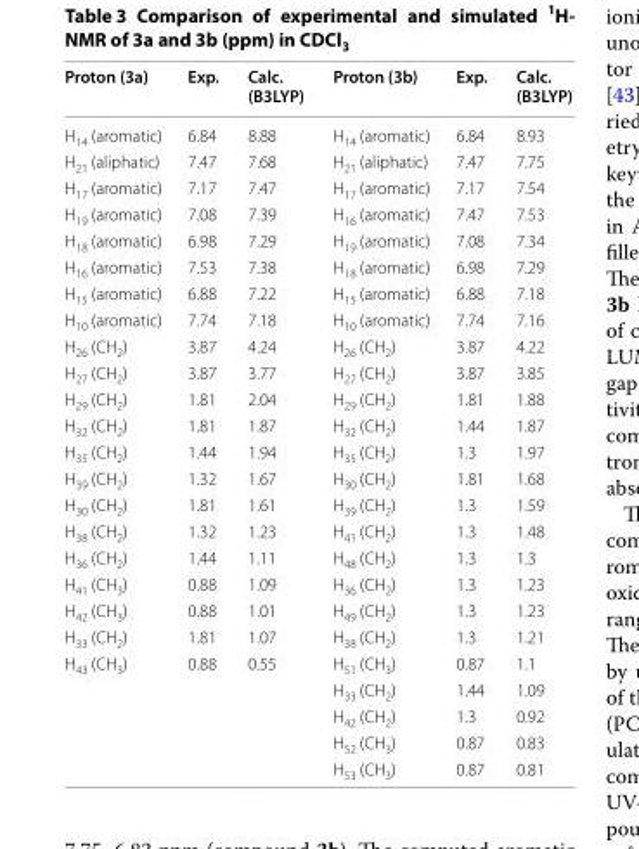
<table><thead><tr><td>Proton (3a)</td><td>Exp.</td><td>Calc. (B3LYP)</td><td>Proton (3b)</td><td>Exp.</td><td>Calc. (B3LYP)</td></tr></thead><tbody><tr><td>H<sub>14</sub> (aromatic)</td><td>6.84</td><td>8.88</td><td>H<sub>14</sub> (aromatic)</td><td>6.84</td><td>8.93</td></tr><tr><td>H<sub>21</sub> (aliphatic)</td><td>7.47</td><td>7.68</td><td>H<sub>21</sub> (aliphatic)</td><td>7.47</td><td>7.75</td></tr><tr><td>H<sub>17</sub> (aromatic)</td><td>7.17</td><td>7.47</td><td>H<sub>17</sub> (aromatic)</td><td>7.17</td><td>7.54</td></tr><tr><td>H<sub>19</sub> (aromatic)</td><td>7.08</td><td>7.39</td><td>H<sub>16</sub> (aromatic)</td><td>7.47</td><td>7.53</td></tr><tr><td>H<sub>18</sub> (aromatic)</td><td>6.98</td><td>7.29</td><td>H<sub>19</sub> (aromatic)</td><td>7.08</td><td>7.34</td></tr><tr><td>H<sub>16</sub> (aromatic)</td><td>7.53</td><td>7.38</td><td>H<sub>18</sub> (aromatic)</td><td>6.98</td><td>7.29</td></tr><tr><td>H<sub>15</sub> (aromatic)</td><td>6.88</td><td>7.22</td><td>H<sub>15</sub> (aromatic)</td><td>6.88</td><td>7.18</td></tr><tr><td>H<sub>10</sub> (aromatic)</td><td>7.74</td><td>7.18</td><td>H<sub>10</sub> (aromatic)</td><td>7.74</td><td>7.16</td></tr><tr><td>H<sub>26</sub> (CH<sub>2</sub>)</td><td>3.87</td><td>4.24</td><td>H<sub>26</sub> (CH<sub>2</sub>)</td><td>3.87</td><td>4.22</td></tr><tr><td>H<sub>27</sub> (CH<sub>2</sub>)</td><td>3.87</td><td>3.77</td><td>H<sub>27</sub> (CH<sub>2</sub>)</td><td>3.87</td><td>3.85</td></tr><tr><td>H<sub>29</sub> (CH<sub>2</sub>)</td><td>1.81</td><td>2.04</td><td>H<sub>29</sub> (CH<sub>2</sub>)</td><td>1.81</td><td>1.88</td></tr><tr><td>H<sub>32</sub> (CH<sub>2</sub>)</td><td>1.81</td><td>1.87</td><td>H<sub>32</sub> (CH<sub>2</sub>)</td><td>1.44</td><td>1.87</td></tr><tr><td>H<sub>35</sub> (CH<sub>2</sub>)</td><td>1.44</td><td>1.94</td><td>H<sub>35</sub> (CH<sub>2</sub>)</td><td>1.3</td><td>1.97</td></tr><tr><td>H<sub>39</sub> (CH<sub>2</sub>)</td><td>1.32</td><td>1.67</td><td>H<sub>30</sub> (CH<sub>2</sub>)</td><td>1.81</td><td>1.68</td></tr><tr><td>H<sub>30</sub> (CH<sub>2</sub>)</td><td>1.81</td><td>1.61</td><td>H<sub>39</sub> (CH<sub>2</sub>)</td><td>1.3</td><td>1.59</td></tr><tr><td>H<sub>38</sub> (CH<sub>2</sub>)</td><td>1.32</td><td>1.23</td><td>H<sub>41</sub> (CH<sub>2</sub>)</td><td>1.3</td><td>1.48</td></tr><tr><td>H<sub>36</sub> (CH<sub>2</sub>)</td><td>1.44</td><td>1.11</td><td>H<sub>48</sub> (CH<sub>2</sub>)</td><td>1.3</td><td>1.3</td></tr><tr><td>H<sub>41</sub> (CH<sub>3</sub>)</td><td>0.88</td><td>1.09</td><td>H<sub>36</sub> (CH<sub>2</sub>)</td><td>1.3</td><td>1.23</td></tr><tr><td>H<sub>42</sub> (CH<sub>3</sub>)</td><td>0.88</td><td>1.01</td><td>H<sub>49</sub> (CH<sub>2</sub>)</td><td>1.3</td><td>1.23</td></tr><tr><td>H<sub>33</sub> (CH<sub>2</sub>)</td><td>1.81</td><td>1.07</td><td>H<sub>38</sub> (CH<sub>2</sub>)</td><td>1.3</td><td>1.21</td></tr><tr><td rowspan="5">H<sub>43</sub> (CH<sub>3</sub>)</td><td rowspan="5">0.88</td><td rowspan="5">0.55</td><td>H<sub>51</sub> (CH<sub>3</sub>)</td><td>0.87</td><td>1.1</td></tr><tr><td>H<sub>33</sub> (CH<sub>2</sub>)</td><td>1.44</td><td>1.09</td></tr><tr><td>H<sub>42</sub> (CH<sub>2</sub>)</td><td>1.3</td><td>0.92</td></tr><tr><td>H<sub>52</sub> (CH<sub>3</sub>)</td><td>0.87</td><td>0.83</td></tr><tr><td>H<sub>53</sub> (CH<sub>3</sub>)</td><td>0.87</td><td>0.81</td></tr></tbody></table>